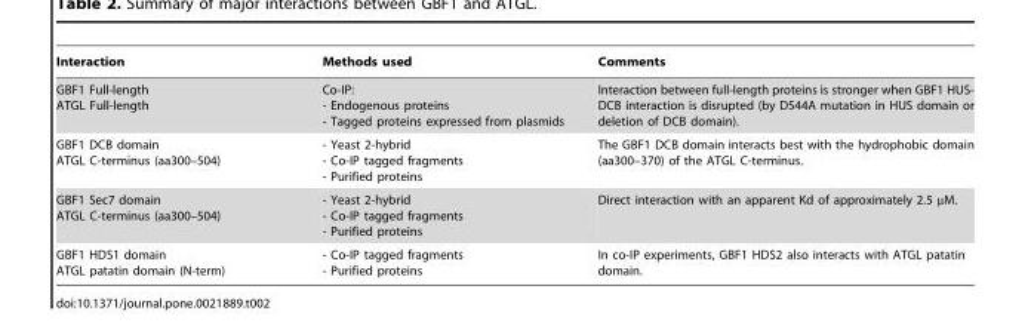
<table><thead><tr><td>Interaction</td><td>Methods used</td><td>Comments</td></tr></thead><tbody><tr><td>GBF1 Full-length ATGL Full-length</td><td>Co-IP: - Endogenous proteins - Tagged proteins expressed from plasmids</td><td>Interaction between full-length proteins is stronger when GBF1 HUS- DCB interaction is disrupted (by D544A mutation in HUS domain or deletion of DCB domain).</td></tr><tr><td>GBF1 DCB domain ATGL C-terminus (aa300–504)</td><td>- Yeast 2-hybrid - Co-IP tagged fragments - Purified proteins</td><td>The GBF1 DCB domain interacts best with the hydrophobic domain (aa300–370) of the ATGL C-terminus.</td></tr><tr><td>GBF1 Sec7 domain ATGL C-terminus (aa300–504)</td><td>- Yeast 2-hybrid - Co-IP tagged fragments - Purified proteins</td><td>Direct interaction with an apparent Kd of approximately 2.5 µM.</td></tr><tr><td>GBF1 HDS1 domain ATGL patatin domain (N-term)</td><td>- Co-IP tagged fragments - Purified proteins</td><td>In co-IP experiments, GBF1 HDS2 also interacts with ATGL patatin domain.</td></tr></tbody></table>